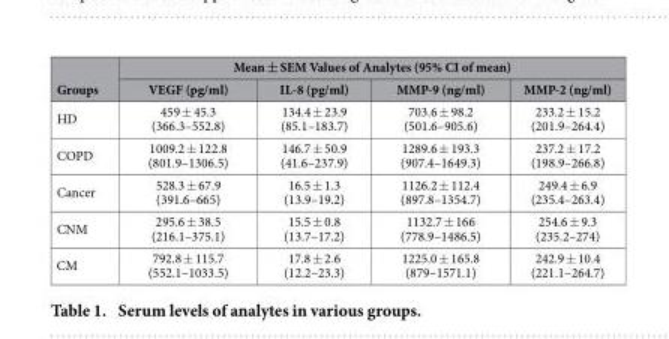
<table><thead><tr><td rowspan="2">Groups</td><td colspan="4">Mean ± SEM Values of Analytes (95% CI of mean)</td></tr><tr><td>VEGF (pg/ml)</td><td>IL-8 (pg/ml)</td><td>MMP-9 (ng/ml)</td><td>MMP-2 (ng/ml)</td></tr></thead><tbody><tr><td>HD</td><td>459 ± 45.3 (366.3–552.8)</td><td>134.4 ± 23.9 (85.1–183.7)</td><td>703.6 ± 98.2 (501.6–905.6)</td><td>233.2 ± 15.2 (201.9–264.4)</td></tr><tr><td>COPD</td><td>1009.2 ± 122.8 (801.9–1306.5)</td><td>146.7 ± 50.9 (41.6–237.9)</td><td>1289.6 ± 193.3 (907.4–1649.3)</td><td>237.2 ± 17.2 (198.9–266.8)</td></tr><tr><td>Cancer</td><td>528.3 ± 67.9 (391.6–665)</td><td>16.5 ± 1.3 (13.9–19.2)</td><td>1126.2 ± 112.4 (897.8–1354.7)</td><td>249.4 ± 6.9 (235.4–263.4)</td></tr><tr><td>CNM</td><td>295.6 ± 38.5 (216.1–375.1)</td><td>15.5 ± 0.8 (13.7–17.2)</td><td>1132.7 ± 166 (778.9–1486.5)</td><td>254.6 ± 9.3 (235.2–274)</td></tr><tr><td>CM</td><td>792.8 ± 115.7 (552.1–1033.5)</td><td>17.8 ± 2.6 (12.2–23.3)</td><td>1225.0 ± 165.8 (879–1571.1)</td><td>242.9 ± 10.4 (221.1–264.7)</td></tr></tbody></table>